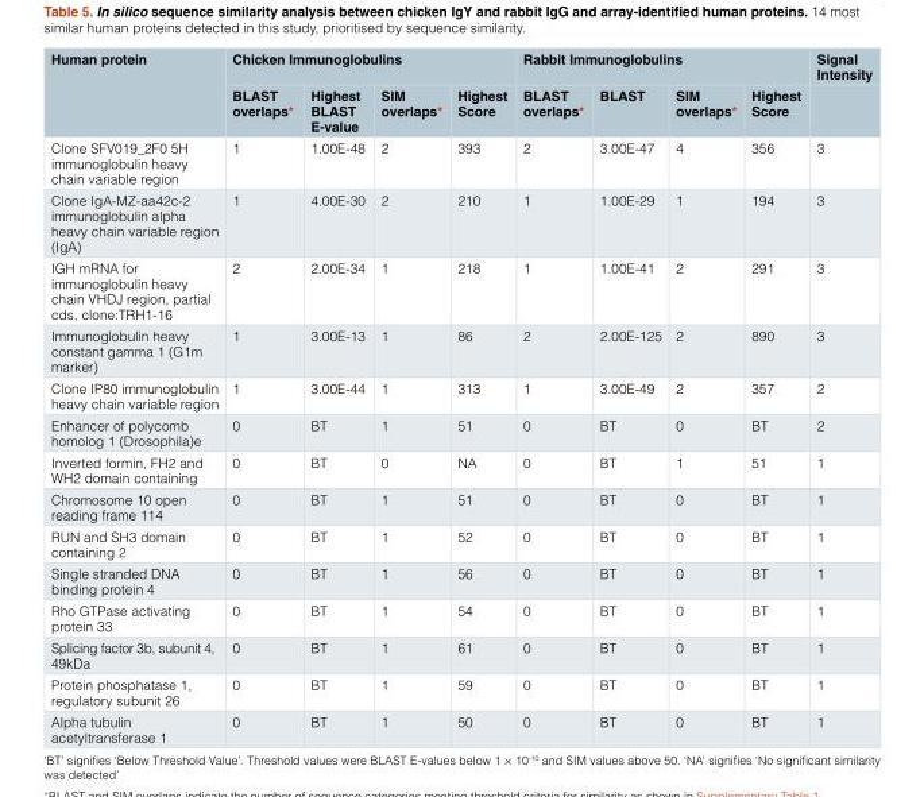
<table><thead><tr><td rowspan="2">Human protein</td><td colspan="4">Chicken Immunoglobulins</td><td colspan="4">Rabbit Immunoglobulins</td><td rowspan="2">Signal Intensity</td></tr><tr><td>BLAST overlaps*</td><td>Highest BLAST E-value</td><td>SIM overlaps*</td><td>Highest Score</td><td>BLAST overlaps*</td><td>BLAST</td><td>SIM overlaps*</td><td>Highest Score</td></tr></thead><tbody><tr><td>Clone SFV019_2F0 5H immunoglobulin heavy chain variable region</td><td>1</td><td>1.00E-48</td><td>2</td><td>393</td><td>2</td><td>3.00E-47</td><td>4</td><td>356</td><td>3</td></tr><tr><td>Clone IgA-MZ-aa42c-2 immunoglobulin alpha heavy chain variable region (IgA)</td><td>1</td><td>4.00E-30</td><td>2</td><td>210</td><td>1</td><td>1.00E-29</td><td>1</td><td>194</td><td>3</td></tr><tr><td>IGH mRNA for immunoglobulin heavy chain VHDJ region, partial cds, clone:TRH1-16</td><td>2</td><td>2.00E-34</td><td>1</td><td>218</td><td>1</td><td>1.00E-41</td><td>2</td><td>291</td><td>3</td></tr><tr><td>Immunoglobulin heavy constant gamma 1 (G1m marker)</td><td>1</td><td>3.00E-13</td><td>1</td><td>86</td><td>2</td><td>2.00E-125</td><td>2</td><td>890</td><td>3</td></tr><tr><td>Clone IP80 immunoglobulin heavy chain variable region</td><td>1</td><td>3.00E-44</td><td>1</td><td>313</td><td>1</td><td>3.00E-49</td><td>2</td><td>357</td><td>2</td></tr><tr><td>Enhancer of polycomb homolog 1 (Drosophila)e</td><td>0</td><td>BT</td><td>1</td><td>51</td><td>0</td><td>BT</td><td>0</td><td>BT</td><td>2</td></tr><tr><td>Inverted formin, FH2 and WH2 domain containing</td><td>0</td><td>BT</td><td>0</td><td>NA</td><td>0</td><td>BT</td><td>1</td><td>51</td><td>1</td></tr><tr><td>Chromosome 10 open reading frame 114</td><td>0</td><td>BT</td><td>1</td><td>51</td><td>0</td><td>BT</td><td>0</td><td>BT</td><td>1</td></tr><tr><td>RUN and SH3 domain containing 2</td><td>0</td><td>BT</td><td>1</td><td>52</td><td>0</td><td>BT</td><td>0</td><td>BT</td><td>1</td></tr><tr><td>Single stranded DNA binding protein 4</td><td>0</td><td>BT</td><td>1</td><td>56</td><td>0</td><td>BT</td><td>0</td><td>BT</td><td>1</td></tr><tr><td>Rho GTPase activating protein 33</td><td>0</td><td>BT</td><td>1</td><td>54</td><td>0</td><td>BT</td><td>0</td><td>BT</td><td>1</td></tr><tr><td>Splicing factor 3b, subunit 4, 49kDa</td><td>0</td><td>BT</td><td>1</td><td>61</td><td>0</td><td>BT</td><td>0</td><td>BT</td><td>1</td></tr><tr><td>Protein phosphatase 1, regulatory subunit 26</td><td>0</td><td>BT</td><td>1</td><td>59</td><td>0</td><td>BT</td><td>0</td><td>BT</td><td>1</td></tr><tr><td>Alpha tubulin acetyltransferase 1</td><td>0</td><td>BT</td><td>1</td><td>50</td><td>0</td><td>BT</td><td>0</td><td>BT</td><td>1</td></tr></tbody></table>